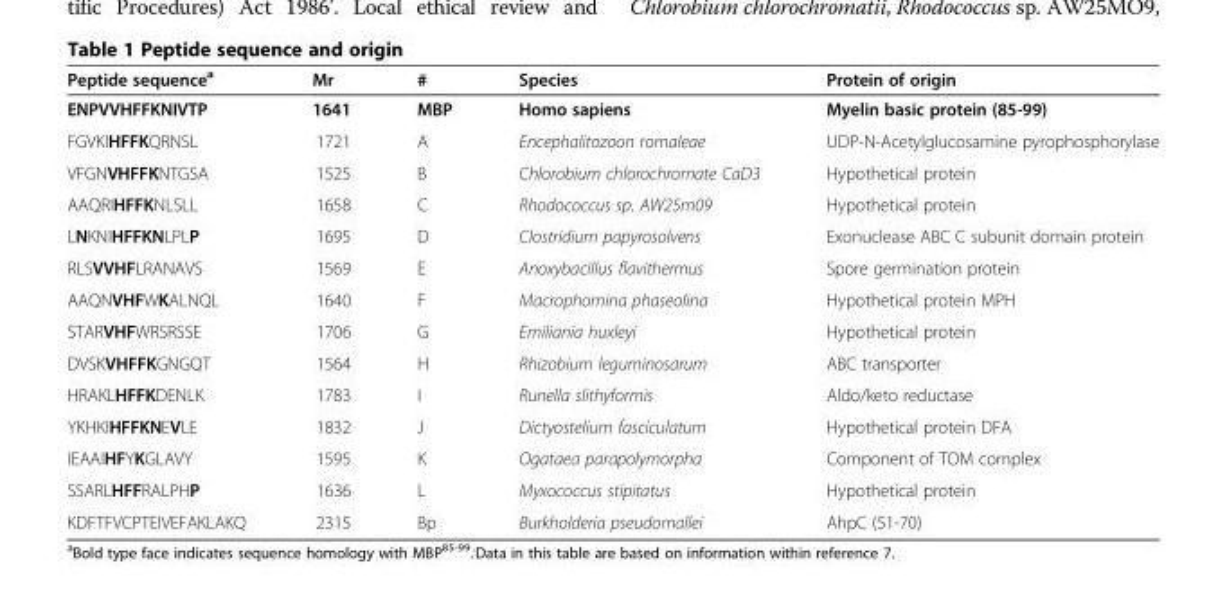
<table><thead><tr><td>Peptide sequence<sup>a</sup></td><td>Mr</td><td>#</td><td>Species</td><td>Protein of origin</td></tr></thead><tbody><tr><td>ENPVVHFFKNIVTP</td><td>1641</td><td>MBP</td><td>Homo sapiens</td><td>Myelin basic protein (85-99)</td></tr><tr><td>FGVKIHFFKQRNSL</td><td>1721</td><td>A</td><td>Encephalitozoon romaleae</td><td>UDP-N-Acetylglucosamine pyrophosphorylase</td></tr><tr><td>VFGNVHFFKNTGSA</td><td>1525</td><td>B</td><td>Chlorobium chlorochromate CaD3</td><td>Hypothetical protein</td></tr><tr><td>AAQRIHFFKNLSLL</td><td>1658</td><td>C</td><td>Rhodococcus sp. AW25m09</td><td>Hypothetical protein</td></tr><tr><td>LNKNIHFFKNLPLP</td><td>1695</td><td>D</td><td>Clostridium papyrosolvens</td><td>Exonuclease ABC C subunit domain protein</td></tr><tr><td>RLSVVHFLRANAVS</td><td>1569</td><td>E</td><td>Anoxybacillus flavithermus</td><td>Spore germination protein</td></tr><tr><td>AAQNVHFWKALNQL</td><td>1640</td><td>F</td><td>Macrophomina phaseolina</td><td>Hypothetical protein MPH</td></tr><tr><td>STARVHFWRSRSSE</td><td>1706</td><td>G</td><td>Emiliania huxleyi</td><td>Hypothetical protein</td></tr><tr><td>DVSKVHFFKGNGQT</td><td>1564</td><td>H</td><td>Rhizobium leguminosarum</td><td>ABC transporter</td></tr><tr><td>HRAKLHFFKDENLK</td><td>1783</td><td>I</td><td>Runella slithyformis</td><td>Aldo/keto reductase</td></tr><tr><td>YKHKIHFFKNEVLE</td><td>1832</td><td>J</td><td>Dictyostelium fasciculatum</td><td>Hypothetical protein DFA</td></tr><tr><td>IEAAIHFYKGLAVY</td><td>1595</td><td>K</td><td>Ogataea parapolymorpha</td><td>Component of TOM complex</td></tr><tr><td>SSARLHFFRALPHP</td><td>1636</td><td>L</td><td>Myxococcus stipitatus</td><td>Hypothetical protein</td></tr><tr><td>KDFTFVCPTEIVEFAKLAKQ</td><td>2315</td><td>Bp</td><td>Burkholderia pseudomallei</td><td>AhpC (51-70)</td></tr></tbody></table>